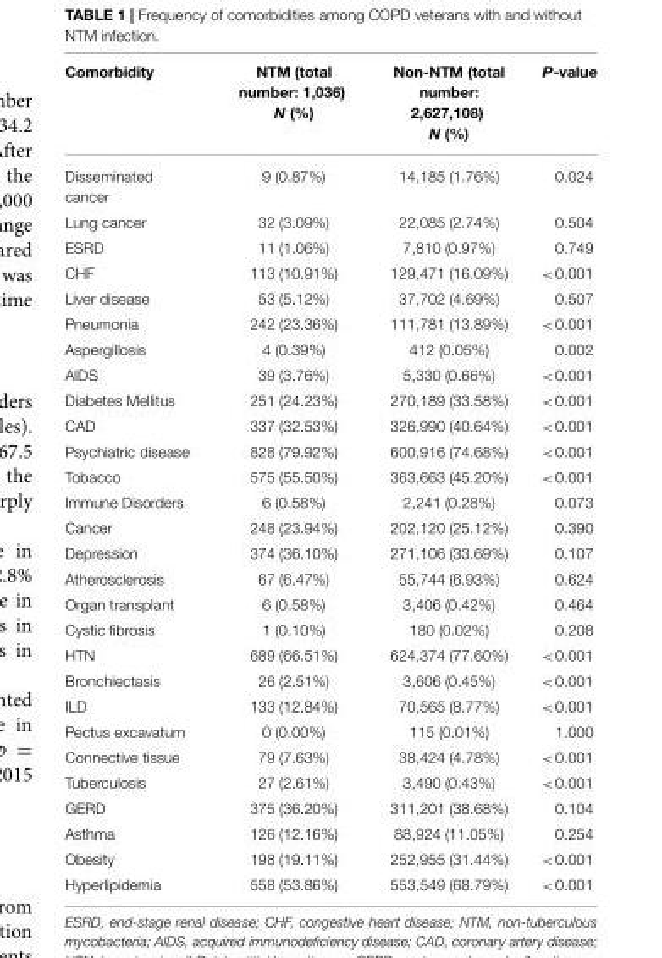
<table><thead><tr><td>Comorbidity</td><td>NTM (total number: 1,036) N (%)</td><td>Non-NTM (total number: 2,627,108) N (%)</td><td>P-value</td></tr></thead><tbody><tr><td>Disseminated cancer</td><td>9 (0.87%)</td><td>14,185 (1.76%)</td><td>0.024</td></tr><tr><td>Lung cancer</td><td>32 (3.09%)</td><td>22,085 (2.74%)</td><td>0.504</td></tr><tr><td>ESRD</td><td>11 (1.06%)</td><td>7,810 (0.97%)</td><td>0.749</td></tr><tr><td>CHF</td><td>113 (10.91%)</td><td>129,471 (16.09%)</td><td>&lt;0.001</td></tr><tr><td>Liver disease</td><td>53 (5.12%)</td><td>37,702 (4.69%)</td><td>0.507</td></tr><tr><td>Pneumonia</td><td>242 (23.36%)</td><td>111,781 (13.89%)</td><td>&lt;0.001</td></tr><tr><td>Aspergillosis</td><td>4 (0.39%)</td><td>412 (0.05%)</td><td>0.002</td></tr><tr><td>AIDS</td><td>39 (3.76%)</td><td>5,330 (0.66%)</td><td>&lt;0.001</td></tr><tr><td>Diabetes Mellitus</td><td>251 (24.23%)</td><td>270,189 (33.58%)</td><td>&lt;0.001</td></tr><tr><td>CAD</td><td>337 (32.53%)</td><td>326,990 (40.64%)</td><td>&lt;0.001</td></tr><tr><td>Psychiatric disease</td><td>828 (79.92%)</td><td>600,916 (74.68%)</td><td>&lt;0.001</td></tr><tr><td>Tobacco</td><td>575 (55.50%)</td><td>363,663 (45.20%)</td><td>&lt;0.001</td></tr><tr><td>Immune Disorders</td><td>6 (0.58%)</td><td>2,241 (0.28%)</td><td>0.073</td></tr><tr><td>Cancer</td><td>248 (23.94%)</td><td>202,120 (25.12%)</td><td>0.390</td></tr><tr><td>Depression</td><td>374 (36.10%)</td><td>271,106 (33.69%)</td><td>0.107</td></tr><tr><td>Atherosclerosis</td><td>67 (6.47%)</td><td>55,744 (6.93%)</td><td>0.624</td></tr><tr><td>Organ transplant</td><td>6 (0.58%)</td><td>3,406 (0.42%)</td><td>0.464</td></tr><tr><td>Cystic fibrosis</td><td>1 (0.10%)</td><td>180 (0.02%)</td><td>0.208</td></tr><tr><td>HTN</td><td>689 (66.51%)</td><td>624,374 (77.60%)</td><td>&lt;0.001</td></tr><tr><td>Bronchiectasis</td><td>26 (2.51%)</td><td>3,606 (0.45%)</td><td>&lt;0.001</td></tr><tr><td>ILD</td><td>133 (12.84%)</td><td>70,565 (8.77%)</td><td>&lt;0.001</td></tr><tr><td>Pectus excavatum</td><td>0 (0.00%)</td><td>115 (0.01%)</td><td>1.000</td></tr><tr><td>Connective tissue</td><td>79 (7.63%)</td><td>38,424 (4.78%)</td><td>&lt;0.001</td></tr><tr><td>Tuberculosis</td><td>27 (2.61%)</td><td>3,490 (0.43%)</td><td>&lt;0.001</td></tr><tr><td>GERD</td><td>375 (36.20%)</td><td>311,201 (38.68%)</td><td>0.104</td></tr><tr><td>Asthma</td><td>126 (12.16%)</td><td>88,924 (11.05%)</td><td>0.254</td></tr><tr><td>Obesity</td><td>198 (19.11%)</td><td>252,955 (31.44%)</td><td>&lt;0.001</td></tr><tr><td>Hyperlipidemia</td><td>558 (53.86%)</td><td>553,549 (68.79%)</td><td>&lt;0.001</td></tr></tbody></table>